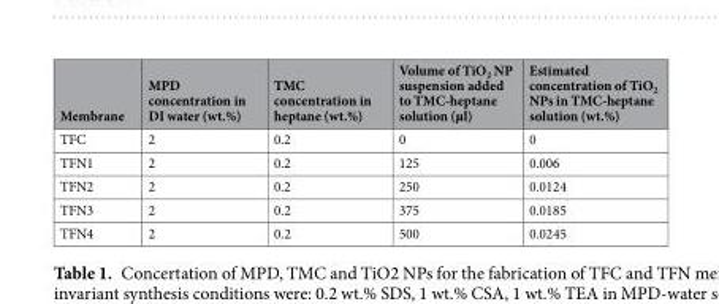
<table><thead><tr><td>Membrane</td><td>MPD concentration in DI water (wt.%)</td><td>TMC concentration in heptane (wt.%)</td><td>Volume of TiO<sub>2</sub> NP suspension added to TMC-heptane solution (µl)</td><td>Estimated concentration of TiO<sub>2</sub> NPs in TMC-heptane solution (wt.%)</td></tr></thead><tbody><tr><td>TFC</td><td>2</td><td>0.2</td><td>0</td><td>0</td></tr><tr><td>TFN1</td><td>2</td><td>0.2</td><td>125</td><td>0.006</td></tr><tr><td>TFN2</td><td>2</td><td>0.2</td><td>250</td><td>0.0124</td></tr><tr><td>TFN3</td><td>2</td><td>0.2</td><td>375</td><td>0.0185</td></tr><tr><td>TFN4</td><td>2</td><td>0.2</td><td>500</td><td>0.0245</td></tr></tbody></table>